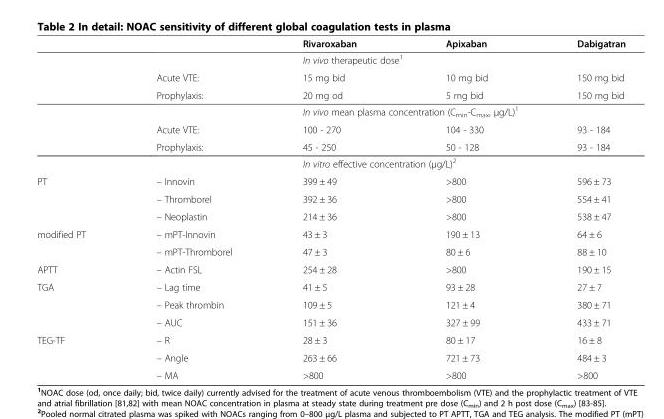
<table><thead><tr><td></td><td></td><td>Rivaroxaban</td><td>Apixaban</td><td>Dabigatran</td></tr></thead><tbody><tr><td></td><td></td><td colspan="3">In vivo therapeutic dose<sup>1</sup></td></tr><tr><td rowspan="2"></td><td>Acute VTE:</td><td>15 mg bid</td><td>10 mg bid</td><td>150 mg bid</td></tr><tr><td>Prophylaxis:</td><td>20 mg od</td><td>5 mg bid</td><td>150 mg bid</td></tr><tr><td></td><td></td><td colspan="3">In vivo mean plasma concentration (C<sub>min</sub>-C<sub>max</sub>, μg/L)<sup>1</sup></td></tr><tr><td rowspan="2"></td><td>Acute VTE:</td><td>100 - 270</td><td>104 - 330</td><td>93 - 184</td></tr><tr><td>Prophylaxis:</td><td>45 - 250</td><td>50 - 128</td><td>93 - 184</td></tr><tr><td></td><td></td><td colspan="3">In vitro effective concentration (μg/L)<sup>2</sup></td></tr><tr><td rowspan="3">PT</td><td>– Innovin</td><td>399 ± 49</td><td>&gt;800</td><td>596 ± 73</td></tr><tr><td>– Thromborel</td><td>392 ± 36</td><td>&gt;800</td><td>554 ± 41</td></tr><tr><td>– Neoplastin</td><td>214 ± 36</td><td>&gt;800</td><td>538 ± 47</td></tr><tr><td rowspan="2">modified PT</td><td>– mPT-Innovin</td><td>43 ± 3</td><td>190 ± 13</td><td>64 ± 6</td></tr><tr><td>– mPT-Thromborel</td><td>47 ± 3</td><td>80 ± 6</td><td>88 ± 10</td></tr><tr><td>APTT</td><td>– Actin FSL</td><td>254 ± 28</td><td>&gt;800</td><td>190 ± 15</td></tr><tr><td rowspan="3">TGA</td><td>– Lag time</td><td>41 ± 5</td><td>93 ± 28</td><td>27 ± 7</td></tr><tr><td>– Peak thrombin</td><td>109 ± 5</td><td>121 ± 4</td><td>380 ± 71</td></tr><tr><td>– AUC</td><td>151 ± 36</td><td>327 ± 99</td><td>433 ± 71</td></tr><tr><td rowspan="3">TEG-TF</td><td>– R</td><td>28 ± 3</td><td>80 ± 17</td><td>16 ± 8</td></tr><tr><td>– Angle</td><td>263 ± 66</td><td>721 ± 73</td><td>484 ± 3</td></tr><tr><td>– MA</td><td>&gt;800</td><td>&gt;800</td><td>&gt;800</td></tr></tbody></table>